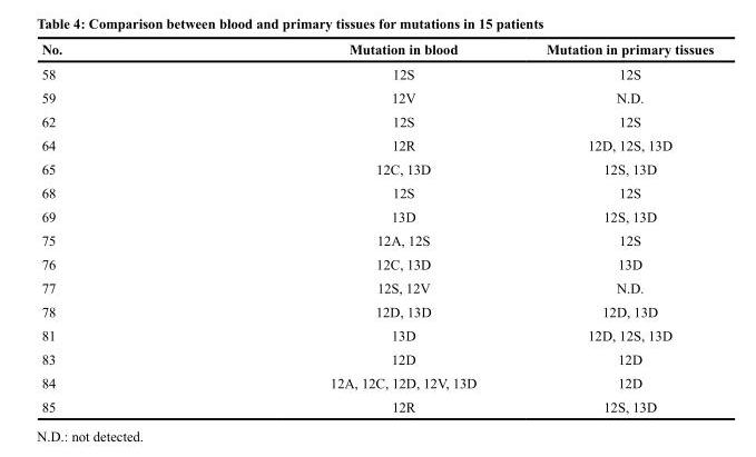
<table><thead><tr><td>No.</td><td>Mutation in blood</td><td>Mutation in primary tissues</td></tr></thead><tbody><tr><td>58</td><td>12S</td><td>12S</td></tr><tr><td>59</td><td>12V</td><td>N.D.</td></tr><tr><td>62</td><td>12S</td><td>12S</td></tr><tr><td>64</td><td>12R</td><td>12D, 12S, 13D</td></tr><tr><td>65</td><td>12C, 13D</td><td>12S, 13D</td></tr><tr><td>68</td><td>12S</td><td>12S</td></tr><tr><td>69</td><td>13D</td><td>12S, 13D</td></tr><tr><td>75</td><td>12A, 12S</td><td>12S</td></tr><tr><td>76</td><td>12C, 13D</td><td>13D</td></tr><tr><td>77</td><td>12S, 12V</td><td>N.D.</td></tr><tr><td>78</td><td>12D, 13D</td><td>12D, 13D</td></tr><tr><td>81</td><td>13D</td><td>12D, 12S, 13D</td></tr><tr><td>83</td><td>12D</td><td>12D</td></tr><tr><td>84</td><td>12A, 12C, 12D, 12V, 13D</td><td>12D</td></tr><tr><td>85</td><td>12R</td><td>12S, 13D</td></tr></tbody></table>